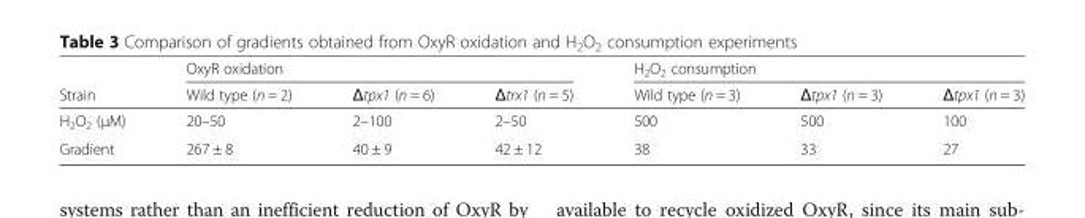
<table><thead><tr><td rowspan="2">Strain</td><td colspan="3">OxyR oxidation</td><td colspan="3">H<sub>2</sub>O<sub>2</sub> consumption</td></tr><tr><td>Wild type (n = 2)</td><td>Δtpx1 (n = 6)</td><td>Δtrx1 (n = 5)</td><td>Wild type (n = 3)</td><td>Δtpx1 (n = 3)</td><td>Δtpx1 (n = 3)</td></tr></thead><tbody><tr><td>H<sub>2</sub>O<sub>2</sub> (μM)</td><td>20–50</td><td>2–100</td><td>2–50</td><td>500</td><td>500</td><td>100</td></tr><tr><td>Gradient</td><td>267 ± 8</td><td>40 ± 9</td><td>42 ± 12</td><td>38</td><td>33</td><td>27</td></tr></tbody></table>